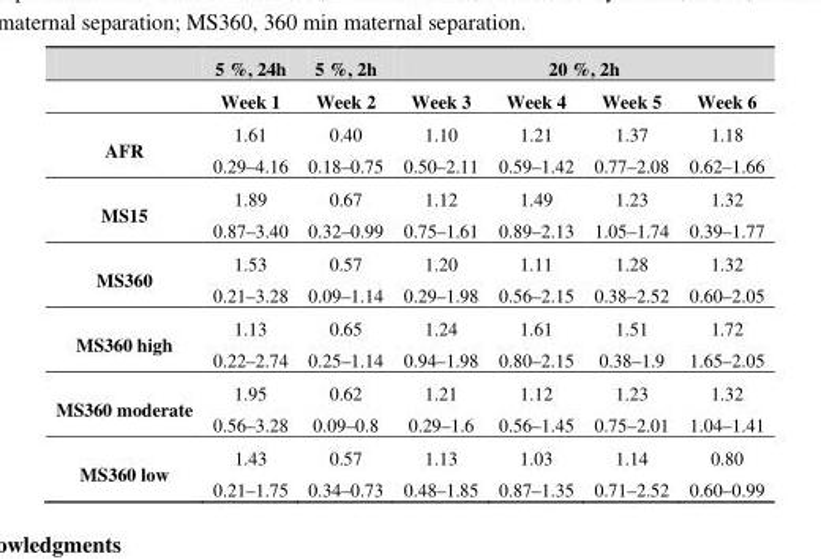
<table><thead><tr><td rowspan="2"></td><td rowspan="2">5 %, 24h Week 1</td><td rowspan="2">5 %, 2h Week 2</td><td colspan="4">20 %, 2h</td></tr><tr><td>Week 3</td><td>Week 4</td><td>Week 5</td><td>Week 6</td></tr></thead><tbody><tr><td>AFR</td><td>1.61 0.29–4.16</td><td>0.40 0.18–0.75</td><td>1.10 0.50–2.11</td><td>1.21 0.59–1.42</td><td>1.37 0.77–2.08</td><td>1.18 0.62–1.66</td></tr><tr><td>MS15</td><td>1.89 0.87–3.40</td><td>0.67 0.32–0.99</td><td>1.12 0.75–1.61</td><td>1.49 0.89–2.13</td><td>1.23 1.05–1.74</td><td>1.32 0.39–1.77</td></tr><tr><td>MS360</td><td>1.53 0.21–3.28</td><td>0.57 0.09–1.14</td><td>1.20 0.29–1.98</td><td>1.11 0.56–2.15</td><td>1.28 0.38–2.52</td><td>1.32 0.60–2.05</td></tr><tr><td>MS360 high</td><td>1.13 0.22–2.74</td><td>0.65 0.25–1.14</td><td>1.24 0.94–1.98</td><td>1.61 0.80–2.15</td><td>1.51 0.38–1.9</td><td>1.72 1.65–2.05</td></tr><tr><td>MS360 moderate</td><td>1.95 0.56–3.28</td><td>0.62 0.09–0.8</td><td>1.21 0.29–1.6</td><td>1.12 0.56–1.45</td><td>1.23 0.75–2.01</td><td>1.32 1.04–1.41</td></tr><tr><td>MS360 low</td><td>1.43 0.21–1.75</td><td>0.57 0.34–0.73</td><td>1.13 0.48–1.85</td><td>1.03 0.87–1.35</td><td>1.14 0.71–2.52</td><td>0.80 0.60–0.99</td></tr></tbody></table>